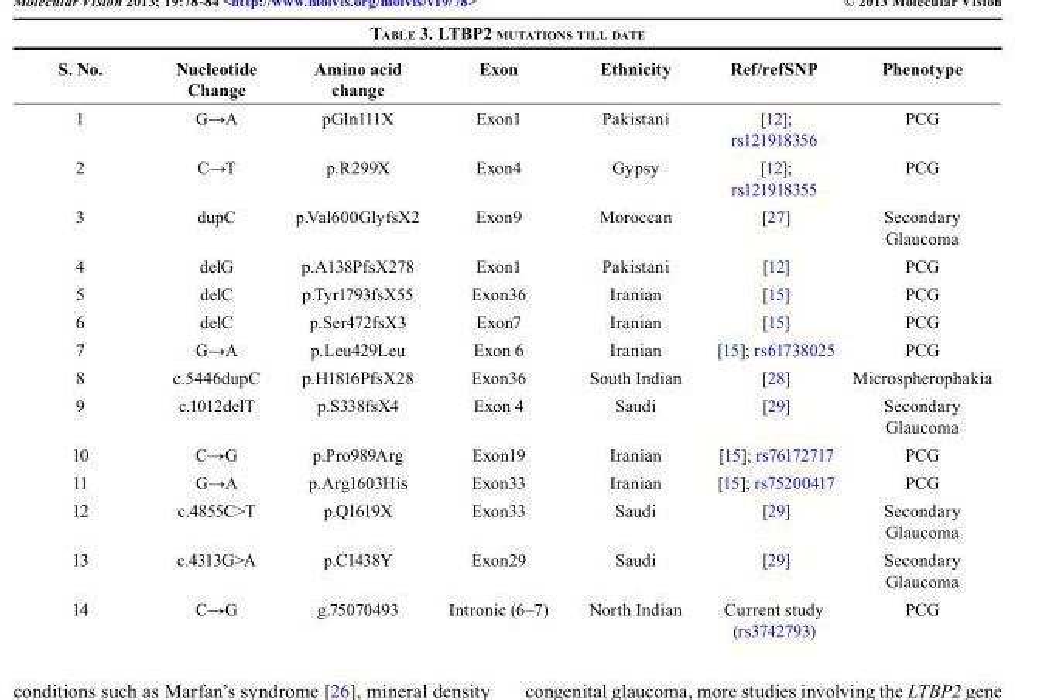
<table><thead><tr><td>S. No.</td><td>Nucleotide Change</td><td>Amino acid change</td><td>Exon</td><td>Ethnicity</td><td>Ref/refSNP</td><td>Phenotype</td></tr></thead><tbody><tr><td>1</td><td>G→A</td><td>pGln111X</td><td>Exon1</td><td>Pakistani</td><td>[12]; rs121918356</td><td>PCG</td></tr><tr><td>2</td><td>C→T</td><td>p.R299X</td><td>Exon4</td><td>Gypsy</td><td>[12]; rs121918355</td><td>PCG</td></tr><tr><td>3</td><td>dupC</td><td>p.Val600GlyfsX2</td><td>Exon9</td><td>Moroccan</td><td>[27]</td><td>Secondary Glaucoma</td></tr><tr><td>4</td><td>delG</td><td>p.A138PfsX278</td><td>Exon1</td><td>Pakistani</td><td>[12]</td><td>PCG</td></tr><tr><td>5</td><td>delC</td><td>p.Tyr1793fsX55</td><td>Exon36</td><td>Iranian</td><td>[15]</td><td>PCG</td></tr><tr><td>6</td><td>delC</td><td>p.Ser472fsX3</td><td>Exon7</td><td>Iranian</td><td>[15]</td><td>PCG</td></tr><tr><td>7</td><td>G→A</td><td>p.Leu429Leu</td><td>Exon 6</td><td>Iranian</td><td>[15]; rs61738025</td><td>PCG</td></tr><tr><td>8</td><td>c.5446dupC</td><td>p.H1816PfsX28</td><td>Exon36</td><td>South Indian</td><td>[28]</td><td>Microspherophakia</td></tr><tr><td>9</td><td>c.1012delT</td><td>p.S338fsX4</td><td>Exon 4</td><td>Saudi</td><td>[29]</td><td>Secondary Glaucoma</td></tr><tr><td>10</td><td>C→G</td><td>p.Pro989Arg</td><td>Exon19</td><td>Iranian</td><td>[15]; rs76172717</td><td>PCG</td></tr><tr><td>11</td><td>G→A</td><td>p.Arg1603His</td><td>Exon33</td><td>Iranian</td><td>[15]; rs75200417</td><td>PCG</td></tr><tr><td>12</td><td>c.4855C&gt;T</td><td>p.Q1619X</td><td>Exon33</td><td>Saudi</td><td>[29]</td><td>Secondary Glaucoma</td></tr><tr><td>13</td><td>c.4313G&gt;A</td><td>p.C1438Y</td><td>Exon29</td><td>Saudi</td><td>[29]</td><td>Secondary Glaucoma</td></tr><tr><td>14</td><td>C→G</td><td>g.75070493</td><td>Intronic (6–7)</td><td>North Indian</td><td>Current study (rs3742793)</td><td>PCG</td></tr></tbody></table>